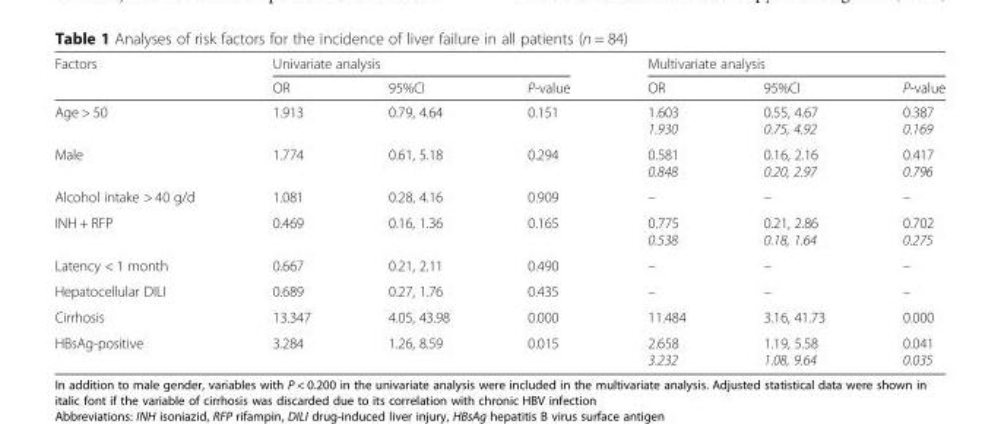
<table><thead><tr><td rowspan="2">Factors</td><td colspan="3">Univariate analysis</td><td colspan="3">Multivariate analysis</td></tr><tr><td>OR</td><td>95%CI</td><td>P-value</td><td>OR</td><td>95%CI</td><td>P-value</td></tr></thead><tbody><tr><td>Age &gt; 50</td><td>1.913</td><td>0.79, 4.64</td><td>0.151</td><td>1.603 1.930</td><td>0.55, 4.67 0.75, 4.92</td><td>0.387 0.169</td></tr><tr><td>Male</td><td>1.774</td><td>0.61, 5.18</td><td>0.294</td><td>0.581 0.848</td><td>0.16, 2.16 0.20, 2.97</td><td>0.417 0.796</td></tr><tr><td>Alcohol intake &gt; 40 g/d</td><td>1.081</td><td>0.28, 4.16</td><td>0.909</td><td>–</td><td>–</td><td>–</td></tr><tr><td>INH + RFP</td><td>0.469</td><td>0.16, 1.36</td><td>0.165</td><td>0.775 0.538</td><td>0.21, 2.86 0.18, 1.64</td><td>0.702 0.275</td></tr><tr><td>Latency &lt; 1 month</td><td>0.667</td><td>0.21, 2.11</td><td>0.490</td><td>–</td><td>–</td><td>–</td></tr><tr><td>Hepatocellular DILI</td><td>0.689</td><td>0.27, 1.76</td><td>0.435</td><td>–</td><td>–</td><td>–</td></tr><tr><td>Cirrhosis</td><td>13.347</td><td>4.05, 43.98</td><td>0.000</td><td>11.484</td><td>3.16, 41.73</td><td>0.000</td></tr><tr><td>HBsAg-positive</td><td>3.284</td><td>1.26, 8.59</td><td>0.015</td><td>2.658 3.232</td><td>1.19, 5.58 1.08, 9.64</td><td>0.041 0.035</td></tr></tbody></table>